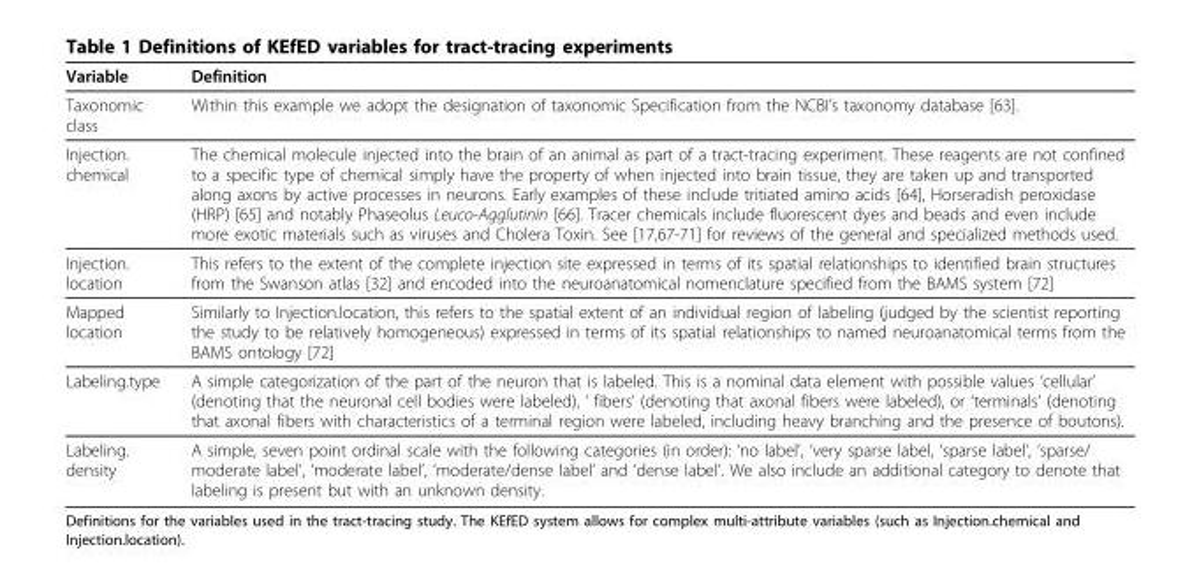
<table><thead><tr><td>Variable</td><td>Definition</td></tr></thead><tbody><tr><td>Taxonomic class</td><td>Within this example we adopt the designation of taxonomic Specification from the NCBI’s taxonomy database [63].</td></tr><tr><td>Injection. chemical</td><td>The chemical molecule injected into the brain of an animal as part of a tract-tracing experiment. These reagents are not confined to a specific type of chemical simply have the property of when injected into brain tissue, they are taken up and transported along axons by active processes in neurons. Early examples of these include tritiated amino acids [64], Horseradish peroxidase (HRP) [65] and notably Phaseolus Leuco-Agglutinin [66]. Tracer chemicals include fluorescent dyes and beads and even include more exotic materials such as viruses and Cholera Toxin. See [17,67-71] for reviews of the general and specialized methods used.</td></tr><tr><td>Injection. location</td><td>This refers to the extent of the complete injection site expressed in terms of its spatial relationships to identified brain structures from the Swanson atlas [32] and encoded into the neuroanatomical nomenclature specified from the BAMS system [72]</td></tr><tr><td>Mapped location</td><td>Similarly to Injection.location, this refers to the spatial extent of an individual region of labeling (judged by the scientist reporting the study to be relatively homogeneous) expressed in terms of its spatial relationships to named neuroanatomical terms from the BAMS ontology [72]</td></tr><tr><td>Labeling.type</td><td>A simple categorization of the part of the neuron that is labeled. This is a nominal data element with possible values ‘cellular’ (denoting that the neuronal cell bodies were labeled), ‘ fibers’ (denoting that axonal fibers were labeled), or ‘terminals’ (denoting that axonal fibers with characteristics of a terminal region were labeled, including heavy branching and the presence of boutons).</td></tr><tr><td>Labeling. density</td><td>A simple, seven point ordinal scale with the following categories (in order): ‘no label’, ‘very sparse label, ‘sparse label’, ‘sparse/ moderate label’, ‘moderate label’, ‘moderate/dense label’ and ‘dense label’. We also include an additional category to denote that labeling is present but with an unknown density.</td></tr></tbody></table>